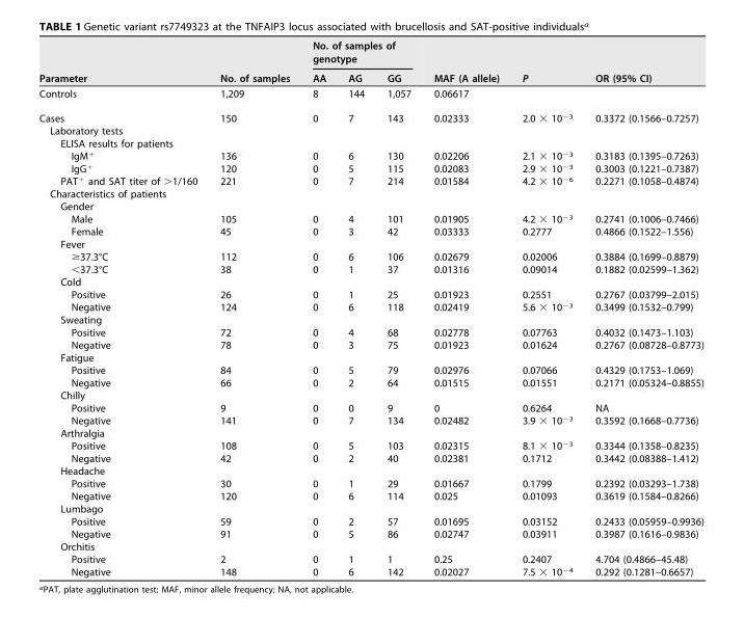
<table><thead><tr><td rowspan="2">Parameter</td><td rowspan="2">No. of samples</td><td colspan="3">No. of samples of genotype</td><td rowspan="2">MAF (A allele)</td><td rowspan="2">P</td><td rowspan="2">OR (95% CI)</td></tr><tr><td>AA</td><td>AG</td><td>GG</td></tr></thead><tbody><tr><td>Controls</td><td>1,209</td><td>8</td><td>144</td><td>1,057</td><td>0.06617</td><td></td><td></td></tr><tr><td>Cases</td><td>150</td><td>0</td><td>7</td><td>143</td><td>0.02333</td><td>2.0 × 10<sup>−3</sup></td><td>0.3372 (0.1566–0.7257)</td></tr><tr><td colspan="8">Laboratory tests</td></tr><tr><td colspan="8">ELISA results for patients</td></tr><tr><td>IgM<sup>+</sup></td><td>136</td><td>0</td><td>6</td><td>130</td><td>0.02206</td><td>2.1 × 10<sup>−3</sup></td><td>0.3183 (0.1395–0.7263)</td></tr><tr><td>IgG<sup>+</sup></td><td>120</td><td>0</td><td>5</td><td>115</td><td>0.02083</td><td>2.9 × 10<sup>−3</sup></td><td>0.3003 (0.1221–0.7387)</td></tr><tr><td>PAT<sup>+</sup> and SAT titer of &gt;1/160</td><td>221</td><td>0</td><td>7</td><td>214</td><td>0.01584</td><td>4.2 × 10<sup>−6</sup></td><td>0.2271 (0.1058–0.4874)</td></tr><tr><td colspan="8">Characteristics of patients</td></tr><tr><td colspan="8">Gender</td></tr><tr><td>Male</td><td>105</td><td>0</td><td>4</td><td>101</td><td>0.01905</td><td>4.2 × 10<sup>−3</sup></td><td>0.2741 (0.1006–0.7466)</td></tr><tr><td>Female</td><td>45</td><td>0</td><td>3</td><td>42</td><td>0.03333</td><td>0.2777</td><td>0.4866 (0.1522–1.556)</td></tr><tr><td colspan="8">Fever</td></tr><tr><td>≥37.3°C</td><td>112</td><td>0</td><td>6</td><td>106</td><td>0.02679</td><td>0.02006</td><td>0.3884 (0.1699–0.8879)</td></tr><tr><td>&lt;37.3°C</td><td>38</td><td>0</td><td>1</td><td>37</td><td>0.01316</td><td>0.09014</td><td>0.1882 (0.02599–1.362)</td></tr><tr><td colspan="8">Cold</td></tr><tr><td>Positive</td><td>26</td><td>0</td><td>1</td><td>25</td><td>0.01923</td><td>0.2551</td><td>0.2767 (0.03799–2.015)</td></tr><tr><td>Negative</td><td>124</td><td>0</td><td>6</td><td>118</td><td>0.02419</td><td>5.6 × 10<sup>−3</sup></td><td>0.3499 (0.1532–0.799)</td></tr><tr><td colspan="8">Sweating</td></tr><tr><td>Positive</td><td>72</td><td>0</td><td>4</td><td>68</td><td>0.02778</td><td>0.07763</td><td>0.4032 (0.1473–1.103)</td></tr><tr><td>Negative</td><td>78</td><td>0</td><td>3</td><td>75</td><td>0.01923</td><td>0.01624</td><td>0.2767 (0.08728–0.8773)</td></tr><tr><td colspan="8">Fatigue</td></tr><tr><td>Positive</td><td>84</td><td>0</td><td>5</td><td>79</td><td>0.02976</td><td>0.07066</td><td>0.4329 (0.1753–1.069)</td></tr><tr><td>Negative</td><td>66</td><td>0</td><td>2</td><td>64</td><td>0.01515</td><td>0.01551</td><td>0.2171 (0.05324–0.8855)</td></tr><tr><td colspan="8">Chilly</td></tr><tr><td>Positive</td><td>9</td><td>0</td><td>0</td><td>9</td><td>0</td><td>0.6264</td><td>NA</td></tr><tr><td>Negative</td><td>141</td><td>0</td><td>7</td><td>134</td><td>0.02482</td><td>3.9 × 10<sup>−3</sup></td><td>0.3592 (0.1668–0.7736)</td></tr><tr><td colspan="8">Arthralgia</td></tr><tr><td>Positive</td><td>108</td><td>0</td><td>5</td><td>103</td><td>0.02315</td><td>8.1 × 10<sup>−3</sup></td><td>0.3344 (0.1358–0.8235)</td></tr><tr><td>Negative</td><td>42</td><td>0</td><td>2</td><td>40</td><td>0.02381</td><td>0.1712</td><td>0.3442 (0.08388–1.412)</td></tr><tr><td colspan="8">Headache</td></tr><tr><td>Positive</td><td>30</td><td>0</td><td>1</td><td>29</td><td>0.01667</td><td>0.1799</td><td>0.2392 (0.03293–1.738)</td></tr><tr><td>Negative</td><td>120</td><td>0</td><td>6</td><td>114</td><td>0.025</td><td>0.01093</td><td>0.3619 (0.1584–0.8266)</td></tr><tr><td colspan="8">Lumbago</td></tr><tr><td>Positive</td><td>59</td><td>0</td><td>2</td><td>57</td><td>0.01695</td><td>0.03152</td><td>0.2433 (0.05959–0.9936)</td></tr><tr><td>Negative</td><td>91</td><td>0</td><td>5</td><td>86</td><td>0.02747</td><td>0.03911</td><td>0.3987 (0.1616–0.9836)</td></tr><tr><td colspan="8">Orchitis</td></tr><tr><td>Positive</td><td>2</td><td>0</td><td>1</td><td>1</td><td>0.25</td><td>0.2407</td><td>4.704 (0.4866–45.48)</td></tr><tr><td>Negative</td><td>148</td><td>0</td><td>6</td><td>142</td><td>0.02027</td><td>7.5 × 10<sup>−4</sup></td><td>0.292 (0.1281–0.6657)</td></tr></tbody></table>